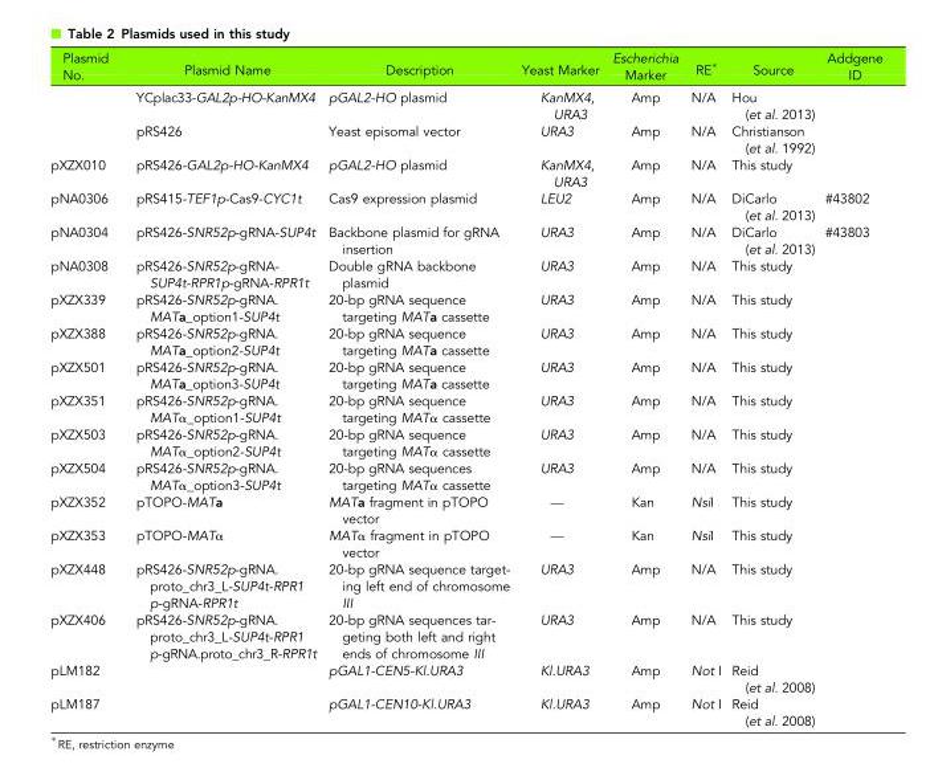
<table><thead><tr><td>Plasmid No.</td><td>Plasmid Name</td><td>Description</td><td>Yeast Marker</td><td>Escherichia Marker</td><td>RE*</td><td>Source</td><td>Addgene ID</td></tr></thead><tbody><tr><td></td><td>YCplac33-GAL2p-HO-KanMX4</td><td>pGAL2-HO plasmid</td><td>KanMX4, URA3</td><td>Amp</td><td>N/A</td><td>Hou (et al. 2013)</td><td></td></tr><tr><td></td><td>pRS426</td><td>Yeast episomal vector</td><td>URA3</td><td>Amp</td><td>N/A</td><td>Christianson (et al. 1992)</td><td></td></tr><tr><td>pXZX010</td><td>pRS426-GAL2p-HO-KanMX4</td><td>pGAL2-HO plasmid</td><td>KanMX4, URA3</td><td>Amp</td><td>N/A</td><td>This study</td><td></td></tr><tr><td>pNA0306</td><td>pRS415-TEF1p-Cas9-CYC1t</td><td>Cas9 expression plasmid</td><td>LEU2</td><td>Amp</td><td>N/A</td><td>DiCarlo (et al. 2013)</td><td>#43802</td></tr><tr><td>pNA0304</td><td>pRS426-SNR52p-gRNA-SUP4t</td><td>Backbone plasmid for gRNA insertion</td><td>URA3</td><td>Amp</td><td>N/A</td><td>DiCarlo (et al. 2013)</td><td>#43803</td></tr><tr><td>pNA0308</td><td>pRS426-SNR52p-gRNA- SUP4t-RPR1p-gRNA-RPR1t</td><td>Double gRNA backbone plasmid</td><td>URA3</td><td>Amp</td><td>N/A</td><td>This study</td><td></td></tr><tr><td>pXZX339</td><td>pRS426-SNR52p-gRNA. MATa_option1-SUP4t</td><td>20-bp gRNA sequence targeting MATa cassette</td><td>URA3</td><td>Amp</td><td>N/A</td><td>This study</td><td></td></tr><tr><td>pXZX388</td><td>pRS426-SNR52p-gRNA. MATa_option2-SUP4t</td><td>20-bp gRNA sequence targeting MATa cassette</td><td>URA3</td><td>Amp</td><td>N/A</td><td>This study</td><td></td></tr><tr><td>pXZX501</td><td>pRS426-SNR52p-gRNA. MATa_option3-SUP4t</td><td>20-bp gRNA sequence targeting MATa cassette</td><td>URA3</td><td>Amp</td><td>N/A</td><td>This study</td><td></td></tr><tr><td>pXZX351</td><td>pRS426-SNR52p-gRNA. MATα_option1-SUP4t</td><td>20-bp gRNA sequence targeting MATα cassette</td><td>URA3</td><td>Amp</td><td>N/A</td><td>This study</td><td></td></tr><tr><td>pXZX503</td><td>pRS426-SNR52p-gRNA. MATα_option2-SUP4t</td><td>20-bp gRNA sequence targeting MATα cassette</td><td>URA3</td><td>Amp</td><td>N/A</td><td>This study</td><td></td></tr><tr><td>pXZX504</td><td>pRS426-SNR52p-gRNA. MATα_option3-SUP4t</td><td>20-bp gRNA sequences targeting MATα cassette</td><td>URA3</td><td>Amp</td><td>N/A</td><td>This study</td><td></td></tr><tr><td>pXZX352</td><td>pTOPO-MATa</td><td>MATa fragment in pTOPO vector</td><td>—</td><td>Kan</td><td>NsiI</td><td>This study</td><td></td></tr><tr><td>pXZX353</td><td>pTOPO-MATα</td><td>MATα fragment in pTOPO vector</td><td>—</td><td>Kan</td><td>NsiI</td><td>This study</td><td></td></tr><tr><td>pXZX448</td><td>pRS426-SNR52p-gRNA. proto_chr3_L-SUP4t-RPR1 p-gRNA-RPR1t</td><td>20-bp gRNA sequence target- ing left end of chromosome III</td><td>URA3</td><td>Amp</td><td>N/A</td><td>This study</td><td></td></tr><tr><td>pXZX406</td><td>pRS426-SNR52p-gRNA. proto_chr3_L-SUP4t-RPR1 p-gRNA.proto_chr3_R-RPR1t</td><td>20-bp gRNA sequences tar- geting both left and right ends of chromosome III</td><td>URA3</td><td>Amp</td><td>N/A</td><td>This study</td><td></td></tr><tr><td>pLM182</td><td></td><td>pGAL1-CEN5-Kl.URA3</td><td>Kl.URA3</td><td>Amp</td><td>Not I</td><td>Reid (et al. 2008)</td><td></td></tr><tr><td>pLM187</td><td></td><td>pGAL1-CEN10-Kl.URA3</td><td>Kl.URA3</td><td>Amp</td><td>Not I</td><td>Reid (et al. 2008)</td><td></td></tr></tbody></table>